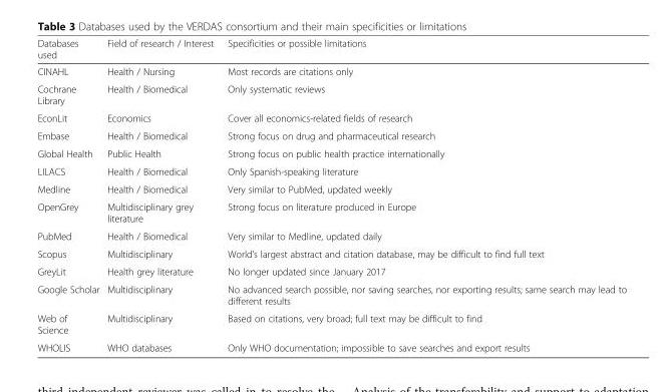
<table><thead><tr><td>Databases used</td><td>Field of research / Interest</td><td>Specificities or possible limitations</td></tr></thead><tbody><tr><td>CINAHL</td><td>Health / Nursing</td><td>Most records are citations only</td></tr><tr><td>Cochrane Library</td><td>Health / Biomedical</td><td>Only systematic reviews</td></tr><tr><td>EconLit</td><td>Economics</td><td>Cover all economics-related fields of research</td></tr><tr><td>Embase</td><td>Health / Biomedical</td><td>Strong focus on drug and pharmaceutical research</td></tr><tr><td>Global Health</td><td>Public Health</td><td>Strong focus on public health practice internationally</td></tr><tr><td>LILACS</td><td>Health / Biomedical</td><td>Only Spanish-speaking literature</td></tr><tr><td>Medline</td><td>Health / Biomedical</td><td>Very similar to PubMed, updated weekly</td></tr><tr><td>OpenGrey</td><td>Multidisciplinary grey literature</td><td>Strong focus on literature produced in Europe</td></tr><tr><td>PubMed</td><td>Health / Biomedical</td><td>Very similar to Medline, updated daily</td></tr><tr><td>Scopus</td><td>Multidisciplinary</td><td>World’s largest abstract and citation database, may be difficult to find full text</td></tr><tr><td>GreyLit</td><td>Health grey literature</td><td>No longer updated since January 2017</td></tr><tr><td>Google Scholar</td><td>Multidisciplinary</td><td>No advanced search possible, nor saving searches, nor exporting results; same search may lead to different results</td></tr><tr><td>Web of Science</td><td>Multidisciplinary</td><td>Based on citations, very broad; full text may be difficult to find</td></tr><tr><td>WHOLIS</td><td>WHO databases</td><td>Only WHO documentation; impossible to save searches and export results</td></tr></tbody></table>